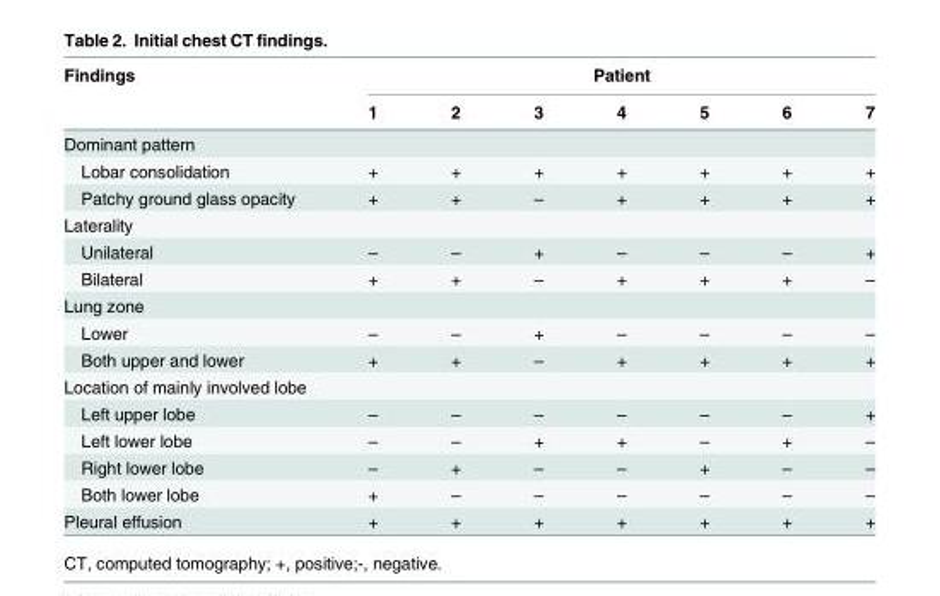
<table><thead><tr><td rowspan="2">Findings</td><td colspan="7">Patient</td></tr><tr><td>1</td><td>2</td><td>3</td><td>4</td><td>5</td><td>6</td><td>7</td></tr></thead><tbody><tr><td colspan="8">Dominant pattern</td></tr><tr><td>Lobar consolidation</td><td>+</td><td>+</td><td>+</td><td>+</td><td>+</td><td>+</td><td>+</td></tr><tr><td>Patchy ground glass opacity</td><td>+</td><td>+</td><td>–</td><td>+</td><td>+</td><td>+</td><td>+</td></tr><tr><td colspan="8">Laterality</td></tr><tr><td>Unilateral</td><td>–</td><td>–</td><td>+</td><td>–</td><td>–</td><td>–</td><td>+</td></tr><tr><td>Bilateral</td><td>+</td><td>+</td><td>–</td><td>+</td><td>+</td><td>+</td><td>–</td></tr><tr><td colspan="8">Lung zone</td></tr><tr><td>Lower</td><td>–</td><td>–</td><td>+</td><td>–</td><td>–</td><td>–</td><td>–</td></tr><tr><td>Both upper and lower</td><td>+</td><td>+</td><td>–</td><td>+</td><td>+</td><td>+</td><td>+</td></tr><tr><td colspan="8">Location of mainly involved lobe</td></tr><tr><td>Left upper lobe</td><td>–</td><td>–</td><td>–</td><td>–</td><td>–</td><td>–</td><td>+</td></tr><tr><td>Left lower lobe</td><td>–</td><td>–</td><td>+</td><td>+</td><td>–</td><td>+</td><td>–</td></tr><tr><td>Right lower lobe</td><td>–</td><td>+</td><td>–</td><td>–</td><td>+</td><td>–</td><td>–</td></tr><tr><td>Both lower lobe</td><td>+</td><td>–</td><td>–</td><td>–</td><td>–</td><td>–</td><td>–</td></tr><tr><td>Pleural effusion</td><td>+</td><td>+</td><td>+</td><td>+</td><td>+</td><td>+</td><td>+</td></tr></tbody></table>